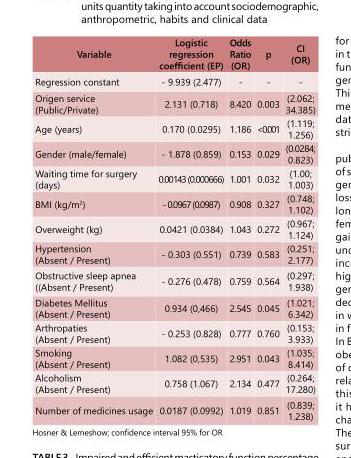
<table><tbody><tr><td>Variable</td><td>Logistic regression coefficient (EP)</td><td>Odds Ratio (OR)</td><td>p</td><td>CI (OR)</td></tr><tr><td>Regression constant</td><td>- 9.939 (2.477)</td><td>-</td><td>-</td><td>-</td></tr><tr><td>Origen service (Public/Private)</td><td>2.131 (0.718)</td><td>8.420</td><td>0.003</td><td>(2.062; 34.385)</td></tr><tr><td>Age (years)</td><td>0.170 (0.0295)</td><td>1.186</td><td>&lt;0.001</td><td>(1.119; 1.256)</td></tr><tr><td>Gender (male/female)</td><td>- 1.878 (0.859)</td><td>0.153</td><td>0.029</td><td>(0.0284; 0.823)</td></tr><tr><td>Waiting time for surgery (days)</td><td>0.00143 (0.000666)</td><td>1.001</td><td>0.032</td><td>(1.00; 1.003)</td></tr><tr><td>BMI (kg/m<sup>2</sup>)</td><td>- 0.0967 (0.0987)</td><td>0.908</td><td>0.327</td><td>(0.748; 1.102)</td></tr><tr><td>Overweight (kg)</td><td>0.0421 (0.0384)</td><td>1.043</td><td>0.272</td><td>(0.967; 1.124)</td></tr><tr><td>Hypertension (Absent / Present)</td><td>- 0.303 (0.551)</td><td>0.739</td><td>0.583</td><td>(0.251; 2.177)</td></tr><tr><td>Obstructive sleep apnea ((Absent / Present)</td><td>- 0.276 (0.478)</td><td>0.759</td><td>0.564</td><td>(0.297; 1.938)</td></tr><tr><td>Diabetes Mellitus (Absent / Present)</td><td>0.934 (0,466)</td><td>2.545</td><td>0.045</td><td>(1.021; 6.342)</td></tr><tr><td>Arthropaties (Absent / Present)</td><td>- 0.253 (0.828)</td><td>0.777</td><td>0.760</td><td>(0.153; 3.933)</td></tr><tr><td>Smoking (Absent / Present)</td><td>1.082 (0,535)</td><td>2.951</td><td>0.043</td><td>(1.035; 8.414)</td></tr><tr><td>Alcoholism (Absent / Present)</td><td>0.758 (1.067)</td><td>2.134</td><td>0.477</td><td>(0.264; 17.280)</td></tr><tr><td>Number of medicines usage</td><td>0.0187 (0.0992)</td><td>1.019</td><td>0.851</td><td>(0.839; 1.238)</td></tr></tbody></table>